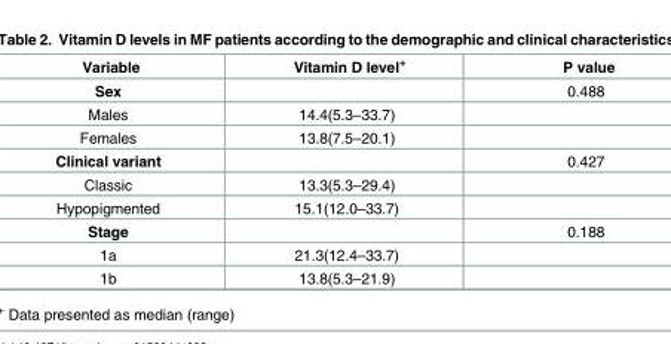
<table><thead><tr><td>Variable</td><td>Vitamin D level<sup>+</sup></td><td>P value</td></tr></thead><tbody><tr><td>Sex</td><td></td><td>0.488</td></tr><tr><td>Males</td><td>14.4(5.3–33.7)</td><td></td></tr><tr><td>Females</td><td>13.8(7.5–20.1)</td><td></td></tr><tr><td>Clinical variant</td><td></td><td>0.427</td></tr><tr><td>Classic</td><td>13.3(5.3–29.4)</td><td></td></tr><tr><td>Hypopigmented</td><td>15.1(12.0–33.7)</td><td></td></tr><tr><td>Stage</td><td></td><td>0.188</td></tr><tr><td>1a</td><td>21.3(12.4–33.7)</td><td></td></tr><tr><td>1b</td><td>13.8(5.3–21.9)</td><td></td></tr></tbody></table>